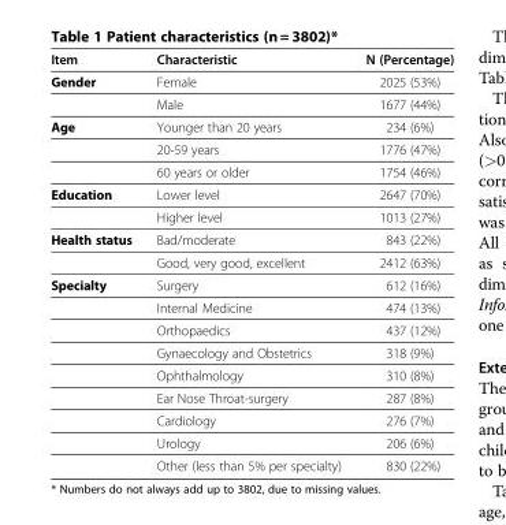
<table><thead><tr><td>Item</td><td>Characteristic</td><td>N (Percentage)</td></tr></thead><tbody><tr><td rowspan="2">Gender</td><td>Female</td><td>2025 (53%)</td></tr><tr><td>Male</td><td>1677 (44%)</td></tr><tr><td rowspan="3">Age</td><td>Younger than 20 years</td><td>234 (6%)</td></tr><tr><td>20-59 years</td><td>1776 (47%)</td></tr><tr><td>60 years or older</td><td>1754 (46%)</td></tr><tr><td rowspan="2">Education</td><td>Lower level</td><td>2647 (70%)</td></tr><tr><td>Higher level</td><td>1013 (27%)</td></tr><tr><td rowspan="2">Health status</td><td>Bad/moderate</td><td>843 (22%)</td></tr><tr><td>Good, very good, excellent</td><td>2412 (63%)</td></tr><tr><td rowspan="9">Specialty</td><td>Surgery</td><td>612 (16%)</td></tr><tr><td>Internal Medicine</td><td>474 (13%)</td></tr><tr><td>Orthopaedics</td><td>437 (12%)</td></tr><tr><td>Gynaecology and Obstetrics</td><td>318 (9%)</td></tr><tr><td>Ophthalmology</td><td>310 (8%)</td></tr><tr><td>Ear Nose Throat-surgery</td><td>287 (8%)</td></tr><tr><td>Cardiology</td><td>276 (7%)</td></tr><tr><td>Urology</td><td>206 (6%)</td></tr><tr><td>Other (less than 5% per specialty)</td><td>830 (22%)</td></tr></tbody></table>